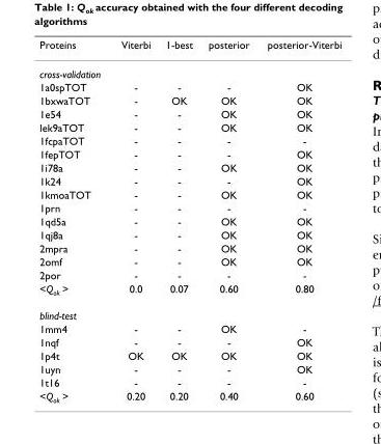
<table><thead><tr><td>Proteins</td><td>Viterbi</td><td>1-best</td><td>posterior</td><td>posterior-Viterbi</td></tr></thead><tbody><tr><td colspan="5">cross-validation</td></tr><tr><td>1a0spTOT</td><td>-</td><td>-</td><td>-</td><td>OK</td></tr><tr><td>1bxwaTOT</td><td>-</td><td>OK</td><td>OK</td><td>OK</td></tr><tr><td>1e54</td><td>-</td><td>-</td><td>OK</td><td>OK</td></tr><tr><td>lek9aTOT</td><td>-</td><td>-</td><td>OK</td><td>OK</td></tr><tr><td>1fcpaTOT</td><td>-</td><td>-</td><td>-</td><td>-</td></tr><tr><td>1fepTOT</td><td>-</td><td>-</td><td>-</td><td>OK</td></tr><tr><td>1i78a</td><td>-</td><td>-</td><td>OK</td><td>OK</td></tr><tr><td>1k24</td><td>-</td><td>-</td><td>-</td><td>OK</td></tr><tr><td>1kmoaTOT</td><td>-</td><td>-</td><td>OK</td><td>OK</td></tr><tr><td>1prn</td><td>-</td><td>-</td><td>-</td><td>-</td></tr><tr><td>1qd5a</td><td>-</td><td>-</td><td>OK</td><td>OK</td></tr><tr><td>1qj8a</td><td>-</td><td>-</td><td>OK</td><td>OK</td></tr><tr><td>2mpra</td><td>-</td><td>-</td><td>OK</td><td>OK</td></tr><tr><td>2omf</td><td>-</td><td>-</td><td>OK</td><td>OK</td></tr><tr><td>2por</td><td>-</td><td>-</td><td>-</td><td>-</td></tr><tr><td>&lt;Qok &gt;</td><td>0.0</td><td>0.07</td><td>0.60</td><td>0.80</td></tr><tr><td colspan="5">blind-test</td></tr><tr><td>1mm4</td><td>-</td><td>-</td><td>OK</td><td>-</td></tr><tr><td>1nqf</td><td>-</td><td>-</td><td>-</td><td>OK</td></tr><tr><td>1p4t</td><td>OK</td><td>OK</td><td>OK</td><td>OK</td></tr><tr><td>1uyn</td><td>-</td><td>-</td><td>-</td><td>OK</td></tr><tr><td>1t16</td><td>-</td><td>-</td><td>-</td><td>-</td></tr><tr><td>&lt;Qok &gt;</td><td>0.20</td><td>0.20</td><td>0.40</td><td>0.60</td></tr></tbody></table>